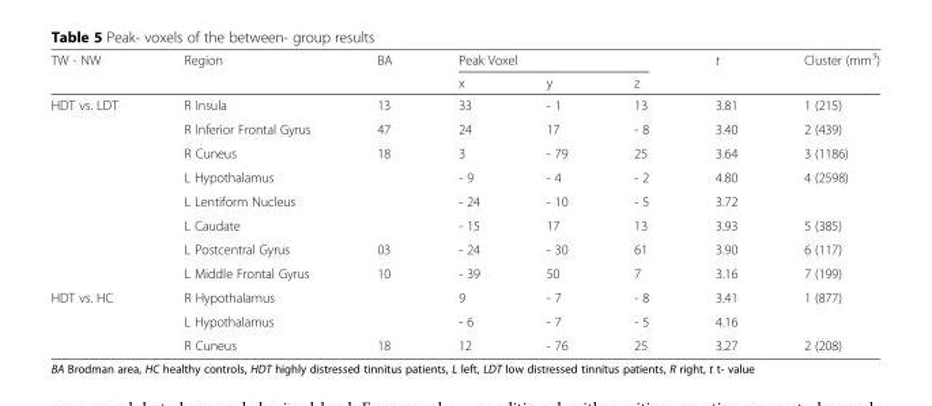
<table><thead><tr><td rowspan="2">TW - NW</td><td rowspan="2">Region</td><td rowspan="2">BA</td><td colspan="3">Peak Voxel</td><td rowspan="2">t</td><td rowspan="2">Cluster (mm<sup>3</sup>)</td></tr><tr><td>x</td><td>y</td><td>z</td></tr></thead><tbody><tr><td rowspan="8">HDT vs. LDT</td><td>R Insula</td><td>13</td><td>33</td><td>- 1</td><td>13</td><td>3.81</td><td>1 (215)</td></tr><tr><td>R Inferior Frontal Gyrus</td><td>47</td><td>24</td><td>17</td><td>- 8</td><td>3.40</td><td>2 (439)</td></tr><tr><td>R Cuneus</td><td>18</td><td>3</td><td>- 79</td><td>25</td><td>3.64</td><td>3 (1186)</td></tr><tr><td>L Hypothalamus</td><td></td><td>- 9</td><td>- 4</td><td>- 2</td><td>4.80</td><td>4 (2598)</td></tr><tr><td>L Lentiform Nucleus</td><td></td><td>- 24</td><td>- 10</td><td>- 5</td><td>3.72</td><td></td></tr><tr><td>L Caudate</td><td></td><td>- 15</td><td>17</td><td>13</td><td>3.93</td><td>5 (385)</td></tr><tr><td>L Postcentral Gyrus</td><td>03</td><td>- 24</td><td>- 30</td><td>61</td><td>3.90</td><td>6 (117)</td></tr><tr><td>L Middle Frontal Gyrus</td><td>10</td><td>- 39</td><td>50</td><td>7</td><td>3.16</td><td>7 (199)</td></tr><tr><td rowspan="3">HDT vs. HC</td><td>R Hypothalamus</td><td></td><td>9</td><td>- 7</td><td>- 8</td><td>3.41</td><td>1 (877)</td></tr><tr><td>L Hypothalamus</td><td></td><td>- 6</td><td>- 7</td><td>- 5</td><td>4.16</td><td></td></tr><tr><td>R Cuneus</td><td>18</td><td>12</td><td>- 76</td><td>25</td><td>3.27</td><td>2 (208)</td></tr></tbody></table>